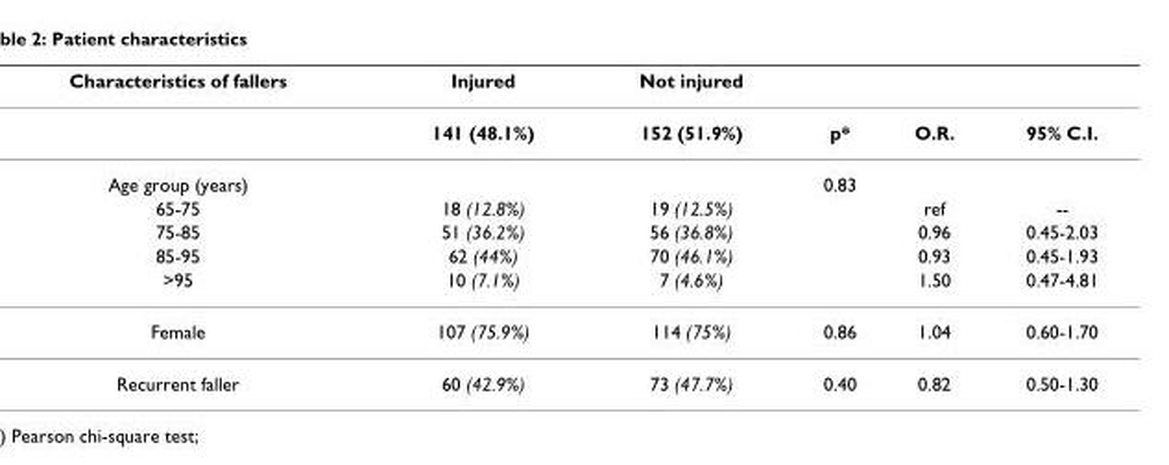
<table><thead><tr><td>Characteristics of fallers</td><td>Injured</td><td>Not injured</td><td></td><td></td><td></td></tr></thead><tbody><tr><td></td><td>141 (48.1%)</td><td>152 (51.9%)</td><td>p*</td><td>O.R.</td><td>95% C.I.</td></tr><tr><td>Age group (years)</td><td></td><td></td><td>0.83</td><td></td><td></td></tr><tr><td>65-75</td><td>18 (12.8%)</td><td>19 (12.5%)</td><td></td><td>ref</td><td>--</td></tr><tr><td>75-85</td><td>51 (36.2%)</td><td>56 (36.8%)</td><td></td><td>0.96</td><td>0.45-2.03</td></tr><tr><td>85-95</td><td>62 (44%)</td><td>70 (46.1%)</td><td></td><td>0.93</td><td>0.45-1.93</td></tr><tr><td>&gt;95</td><td>10 (7.1%)</td><td>7 (4.6%)</td><td></td><td>1.50</td><td>0.47-4.81</td></tr><tr><td>Female</td><td>107 (75.9%)</td><td>114 (75%)</td><td>0.86</td><td>1.04</td><td>0.60-1.70</td></tr><tr><td>Recurrent faller</td><td>60 (42.9%)</td><td>73 (47.7%)</td><td>0.40</td><td>0.82</td><td>0.50-1.30</td></tr></tbody></table>